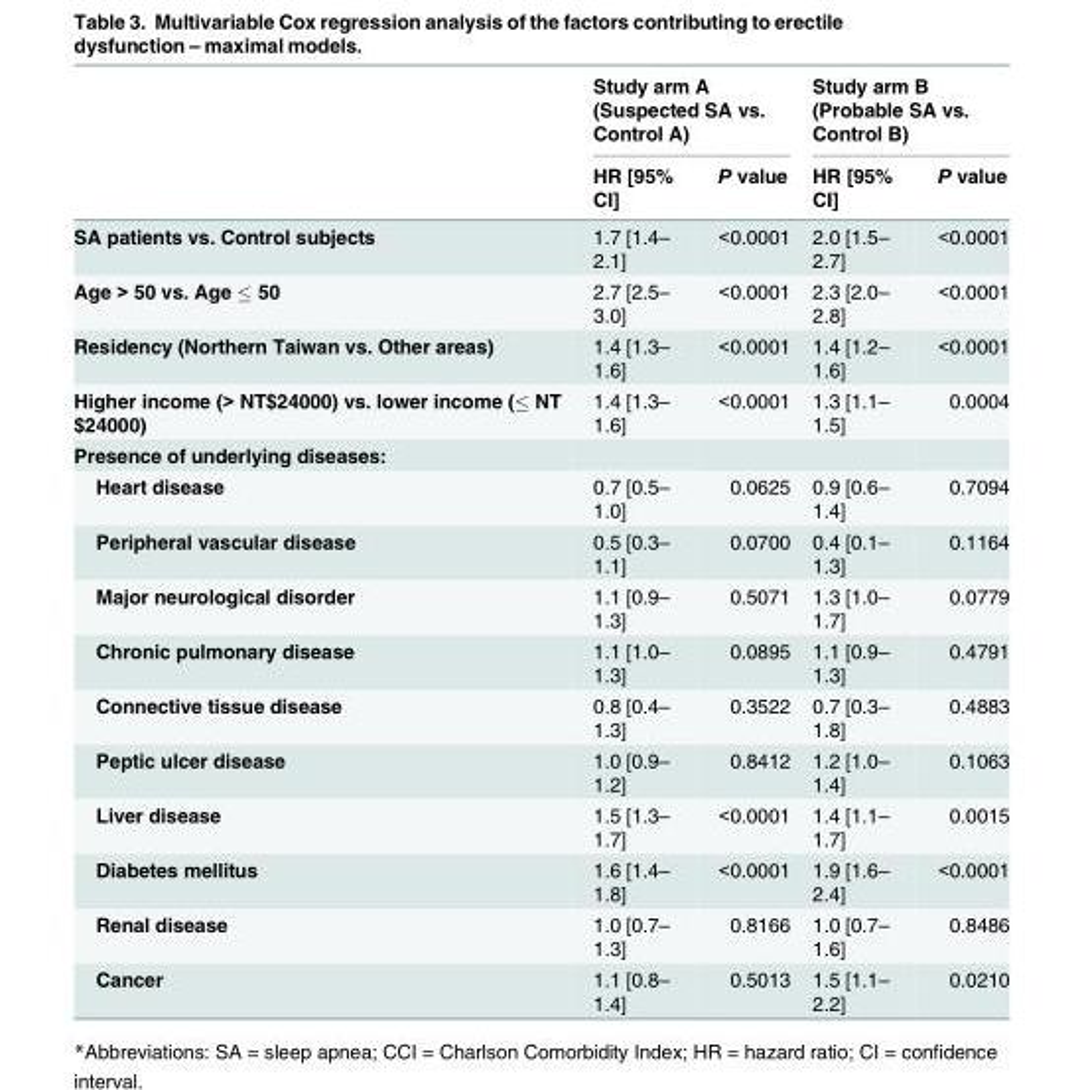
<table><thead><tr><td rowspan="2"></td><td colspan="2">Study arm A (Suspected SA vs. Control A)</td><td colspan="2">Study arm B (Probable SA vs. Control B)</td></tr><tr><td>HR [95% CI]</td><td>P value</td><td>HR [95% CI]</td><td>P value</td></tr></thead><tbody><tr><td>SA patients vs. Control subjects</td><td>1.7 [1.4– 2.1]</td><td>&lt;0.0001</td><td>2.0 [1.5– 2.7]</td><td>&lt;0.0001</td></tr><tr><td>Age &gt; 50 vs. Age ≤ 50</td><td>2.7 [2.5– 3.0]</td><td>&lt;0.0001</td><td>2.3 [2.0– 2.8]</td><td>&lt;0.0001</td></tr><tr><td>Residency (Northern Taiwan vs. Other areas)</td><td>1.4 [1.3– 1.6]</td><td>&lt;0.0001</td><td>1.4 [1.2– 1.6]</td><td>&lt;0.0001</td></tr><tr><td>Higher income (&gt; NT$24000) vs. lower income (≤ NT $24000)</td><td>1.4 [1.3– 1.6]</td><td>&lt;0.0001</td><td>1.3 [1.1– 1.5]</td><td>0.0004</td></tr><tr><td colspan="5">Presence of underlying diseases:</td></tr><tr><td>Heart disease</td><td>0.7 [0.5– 1.0]</td><td>0.0625</td><td>0.9 [0.6– 1.4]</td><td>0.7094</td></tr><tr><td>Peripheral vascular disease</td><td>0.5 [0.3– 1.1]</td><td>0.0700</td><td>0.4 [0.1– 1.3]</td><td>0.1164</td></tr><tr><td>Major neurological disorder</td><td>1.1 [0.9– 1.3]</td><td>0.5071</td><td>1.3 [1.0– 1.7]</td><td>0.0779</td></tr><tr><td>Chronic pulmonary disease</td><td>1.1 [1.0– 1.3]</td><td>0.0895</td><td>1.1 [0.9– 1.3]</td><td>0.4791</td></tr><tr><td>Connective tissue disease</td><td>0.8 [0.4– 1.3]</td><td>0.3522</td><td>0.7 [0.3– 1.8]</td><td>0.4883</td></tr><tr><td>Peptic ulcer disease</td><td>1.0 [0.9– 1.2]</td><td>0.8412</td><td>1.2 [1.0– 1.4]</td><td>0.1063</td></tr><tr><td>Liver disease</td><td>1.5 [1.3– 1.7]</td><td>&lt;0.0001</td><td>1.4 [1.1– 1.7]</td><td>0.0015</td></tr><tr><td>Diabetes mellitus</td><td>1.6 [1.4– 1.8]</td><td>&lt;0.0001</td><td>1.9 [1.6– 2.4]</td><td>&lt;0.0001</td></tr><tr><td>Renal disease</td><td>1.0 [0.7– 1.3]</td><td>0.8166</td><td>1.0 [0.7– 1.6]</td><td>0.8486</td></tr><tr><td>Cancer</td><td>1.1 [0.8– 1.4]</td><td>0.5013</td><td>1.5 [1.1– 2.2]</td><td>0.0210</td></tr></tbody></table>